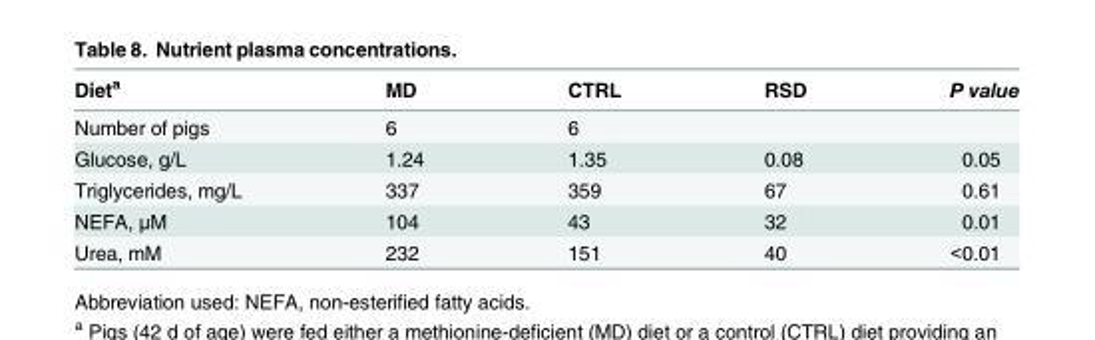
<table><thead><tr><td>Diet<sup>a</sup></td><td>MD</td><td>CTRL</td><td>RSD</td><td>P value</td></tr></thead><tbody><tr><td>Number of pigs</td><td>6</td><td>6</td><td></td><td></td></tr><tr><td>Glucose, g/L</td><td>1.24</td><td>1.35</td><td>0.08</td><td>0.05</td></tr><tr><td>Triglycerides, mg/L</td><td>337</td><td>359</td><td>67</td><td>0.61</td></tr><tr><td>NEFA, μM</td><td>104</td><td>43</td><td>32</td><td>0.01</td></tr><tr><td>Urea, mM</td><td>232</td><td>151</td><td>40</td><td>&lt;0.01</td></tr></tbody></table>